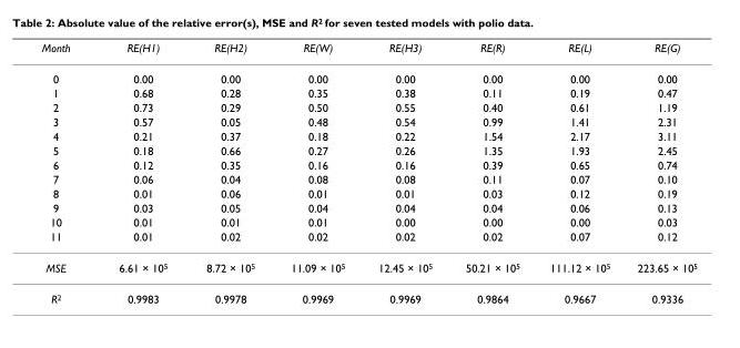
<table><thead><tr><td>Month</td><td>RE(H1)</td><td>RE(H2)</td><td>RE(W)</td><td>RE(H3)</td><td>RE(R)</td><td>RE(L)</td><td>RE(G)</td></tr></thead><tbody><tr><td>0</td><td>0.00</td><td>0.00</td><td>0.00</td><td>0.00</td><td>0.00</td><td>0.00</td><td>0.00</td></tr><tr><td>1</td><td>0.68</td><td>0.28</td><td>0.35</td><td>0.38</td><td>0.11</td><td>0.19</td><td>0.47</td></tr><tr><td>2</td><td>0.73</td><td>0.29</td><td>0.50</td><td>0.55</td><td>0.40</td><td>0.61</td><td>1.19</td></tr><tr><td>3</td><td>0.57</td><td>0.05</td><td>0.48</td><td>0.54</td><td>0.99</td><td>1.41</td><td>2.31</td></tr><tr><td>4</td><td>0.21</td><td>0.37</td><td>0.18</td><td>0.22</td><td>1.54</td><td>2.17</td><td>3.11</td></tr><tr><td>5</td><td>0.18</td><td>0.66</td><td>0.27</td><td>0.26</td><td>1.35</td><td>1.93</td><td>2.45</td></tr><tr><td>6</td><td>0.12</td><td>0.35</td><td>0.16</td><td>0.16</td><td>0.39</td><td>0.65</td><td>0.74</td></tr><tr><td>7</td><td>0.06</td><td>0.04</td><td>0.08</td><td>0.08</td><td>0.11</td><td>0.07</td><td>0.10</td></tr><tr><td>8</td><td>0.01</td><td>0.06</td><td>0.01</td><td>0.01</td><td>0.03</td><td>0.12</td><td>0.19</td></tr><tr><td>9</td><td>0.03</td><td>0.05</td><td>0.04</td><td>0.04</td><td>0.04</td><td>0.06</td><td>0.13</td></tr><tr><td>10</td><td>0.01</td><td>0.01</td><td>0.01</td><td>0.00</td><td>0.00</td><td>0.00</td><td>0.03</td></tr><tr><td>11</td><td>0.01</td><td>0.02</td><td>0.02</td><td>0.02</td><td>0.02</td><td>0.07</td><td>0.12</td></tr><tr><td>MSE</td><td>6.61 × 10<sup>5</sup></td><td>8.72 × 10<sup>5</sup></td><td>11.09 × 10<sup>5</sup></td><td>12.45 × 10<sup>5</sup></td><td>50.21 × 10<sup>5</sup></td><td>111.12 × 10<sup>5</sup></td><td>223.65 × 10<sup>5</sup></td></tr><tr><td>R<sup>2</sup></td><td>0.9983</td><td>0.9978</td><td>0.9969</td><td>0.9969</td><td>0.9864</td><td>0.9667</td><td>0.9336</td></tr></tbody></table>